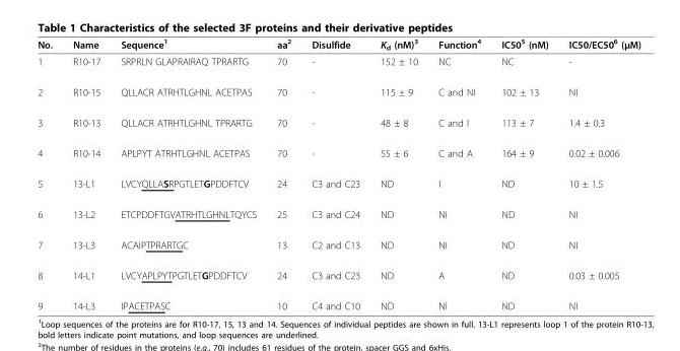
<table><thead><tr><td>No.</td><td>Name</td><td>Sequence<sup>1</sup></td><td>aa<sup>2</sup></td><td>Disulfide</td><td>K<sub>d</sub> (nM)<sup>3</sup></td><td>Function<sup>4</sup></td><td>IC50<sup>5</sup> (nM)</td><td>IC50/EC50<sup>6</sup> (μM)</td></tr></thead><tbody><tr><td>1</td><td>R10-17</td><td>SRPRLN GLAPRAIRAQ TPRARTG</td><td>70</td><td>-</td><td>152 ± 10</td><td>NC</td><td>NC</td><td>-</td></tr><tr><td>2</td><td>R10-15</td><td>QLLACR ATRHTLGHNL ACETPAS</td><td>70</td><td>-</td><td>115 ± 9</td><td>C and NI</td><td>102 ± 13</td><td>NI</td></tr><tr><td>3</td><td>R10-13</td><td>QLLACR ATRHTLGHNL TPRARTG</td><td>70</td><td>-</td><td>48 ± 8</td><td>C and I</td><td>113 ± 7</td><td>1.4 ± 0.3</td></tr><tr><td>4</td><td>R10-14</td><td>APLPYT ATRHTLGHNL ACETPAS</td><td>70</td><td>-</td><td>55 ± 6</td><td>C and A</td><td>164 ± 9</td><td>0.02 ± 0.006</td></tr><tr><td>5</td><td>13-L1</td><td>LVCYQLLASRPGTLETGPDDFTCV</td><td>24</td><td>C3 and C23</td><td>ND</td><td>I</td><td>ND</td><td>10 ± 1.5</td></tr><tr><td>6</td><td>13-L2</td><td>ETCPDDFTGVATRHTLGHNLTQYCS</td><td>25</td><td>C3 and C24</td><td>ND</td><td>NI</td><td>ND</td><td>NI</td></tr><tr><td>7</td><td>13-L3</td><td>ACAIPTPRARTGC</td><td>13</td><td>C2 and C13</td><td>ND</td><td>NI</td><td>ND</td><td>NI</td></tr><tr><td>8</td><td>14-L1</td><td>LVCYAPLPYTPGTLETGPDDFTCV</td><td>24</td><td>C3 and C23</td><td>ND</td><td>A</td><td>ND</td><td>0.03 ± 0.005</td></tr><tr><td>9</td><td>14-L3</td><td>IPACETPASC</td><td>10</td><td>C4 and C10</td><td>ND</td><td>NI</td><td>ND</td><td>NI</td></tr></tbody></table>